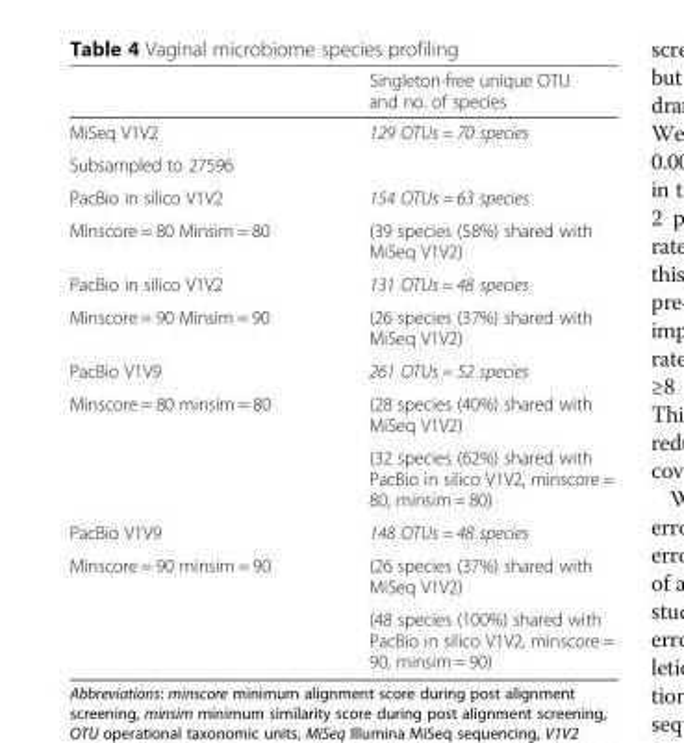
<table><thead><tr><td></td><td>Singleton-free unique OTU and no. of species</td></tr></thead><tbody><tr><td>MiSeq V1V2</td><td rowspan="2">129 OTUs = 70 species</td></tr><tr><td>Subsampled to 27596</td></tr><tr><td>PacBio in silico V1V2</td><td>154 OTUs = 63 species</td></tr><tr><td>Minscore = 80 Minsim = 80</td><td>(39 species (58%) shared with MiSeq V1V2)</td></tr><tr><td>PacBio in silico V1V2</td><td>131 OTUs = 48 species</td></tr><tr><td>Minscore = 90 Minsim = 90</td><td>(26 species (37%) shared with MiSeq V1V2)</td></tr><tr><td>PacBio V1V9</td><td>261 OTUs = 52 species</td></tr><tr><td rowspan="2">Minscore = 80 minsim = 80</td><td>(28 species (40%) shared with MiSeq V1V2)</td></tr><tr><td>(32 species (62%) shared with PacBio in silico V1V2, minscore = 80, minsim = 80)</td></tr><tr><td>PacBio V1V9</td><td>148 OTUs = 48 species</td></tr><tr><td rowspan="2">Minscore = 90 minsim = 90</td><td>(26 species (37%) shared with MiSeq V1V2)</td></tr><tr><td>(48 species (100%) shared with PacBio in silico V1V2, minscore = 90, minsim = 90)</td></tr></tbody></table>